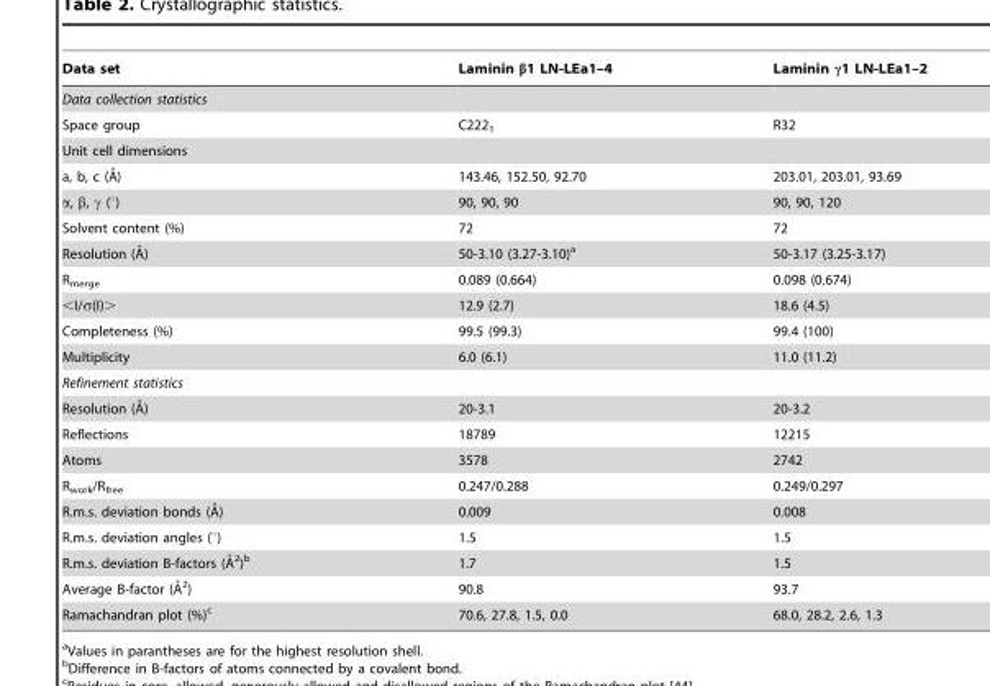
<table><thead><tr><td>Data set</td><td>Laminin β1 LN-LEa1–4</td><td>Laminin γ1 LN-LEa1–2</td></tr></thead><tbody><tr><td colspan="3">Data collection statistics</td></tr><tr><td>Space group</td><td>C222<sub>1</sub></td><td>R32</td></tr><tr><td colspan="3">Unit cell dimensions</td></tr><tr><td>a, b, c (A˚)</td><td>143.46, 152.50, 92.70</td><td>203.01, 203.01, 93.69</td></tr><tr><td>α, β, γ (°)</td><td>90, 90, 90</td><td>90, 90, 120</td></tr><tr><td>Solvent content (%)</td><td>72</td><td>72</td></tr><tr><td>Resolution (A˚)</td><td>50-3.10 (3.27-3.10)<sup>a</sup></td><td>50-3.17 (3.25-3.17)</td></tr><tr><td>R<sub>merge</sub></td><td>0.089 (0.664)</td><td>0.098 (0.674)</td></tr><tr><td>&lt;I/σ(I)&gt;</td><td>12.9 (2.7)</td><td>18.6 (4.5)</td></tr><tr><td>Completeness (%)</td><td>99.5 (99.3)</td><td>99.4 (100)</td></tr><tr><td>Multiplicity</td><td>6.0 (6.1)</td><td>11.0 (11.2)</td></tr><tr><td colspan="3">Refinement statistics</td></tr><tr><td>Resolution (A˚)</td><td>20-3.1</td><td>20-3.2</td></tr><tr><td>Reflections</td><td>18789</td><td>12215</td></tr><tr><td>Atoms</td><td>3578</td><td>2742</td></tr><tr><td>R<sub>work</sub>/R<sub>free</sub></td><td>0.247/0.288</td><td>0.249/0.297</td></tr><tr><td>R.m.s. deviation bonds (A˚)</td><td>0.009</td><td>0.008</td></tr><tr><td>R.m.s. deviation angles (°)</td><td>1.5</td><td>1.5</td></tr><tr><td>R.m.s. deviation B-factors (A˚ 2)b</td><td>1.7</td><td>1.5</td></tr><tr><td>Average B-factor (A˚2)</td><td>90.8</td><td>93.7</td></tr><tr><td>Ramachandran plot (%)<sup>c</sup></td><td>70.6, 27.8, 1.5, 0.0</td><td>68.0, 28.2, 2.6, 1.3</td></tr></tbody></table>